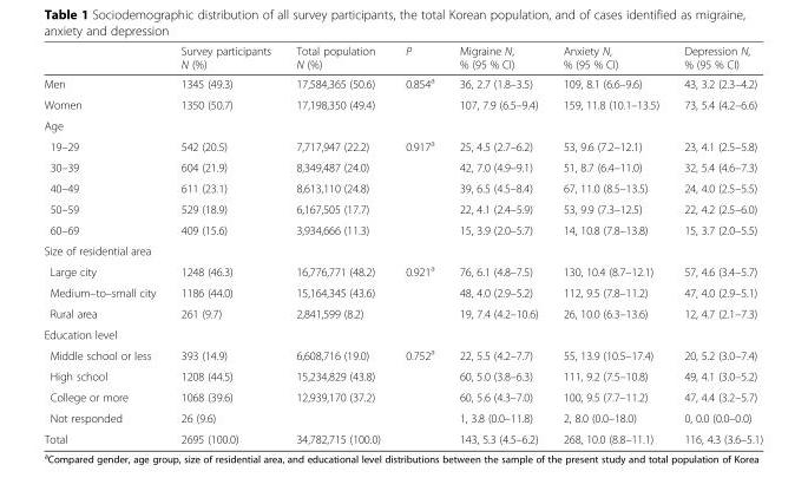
<table><thead><tr><td></td><td>Survey participants N (%)</td><td>Total population N (%)</td><td>P</td><td>Migraine N, % (95 % CI)</td><td>Anxiety N, % (95 % CI)</td><td>Depression N, % (95 % CI)</td></tr></thead><tbody><tr><td>Men</td><td>1345 (49.3)</td><td>17,584,365 (50.6)</td><td rowspan="2">0.854<sup>a</sup></td><td>36, 2.7 (1.8–3.5)</td><td>109, 8.1 (6.6–9.6)</td><td>43, 3.2 (2.3–4.2)</td></tr><tr><td>Women</td><td>1350 (50.7)</td><td>17,198,350 (49.4)</td><td>107, 7.9 (6.5–9.4)</td><td>159, 11.8 (10.1–13.5)</td><td>73, 5.4 (4.2–6.6)</td></tr><tr><td colspan="7">Age</td></tr><tr><td>19–29</td><td>542 (20.5)</td><td>7,717,947 (22.2)</td><td rowspan="5">0.917<sup>a</sup></td><td>25, 4.5 (2.7–6.2)</td><td>53, 9.6 (7.2–12.1)</td><td>23, 4.1 (2.5–5.8)</td></tr><tr><td>30–39</td><td>604 (21.9)</td><td>8,349,487 (24.0)</td><td>42, 7.0 (4.9–9.1)</td><td>51, 8.7 (6.4–11.0)</td><td>32, 5.4 (4.6–7.3)</td></tr><tr><td>40–49</td><td>611 (23.1)</td><td>8,613,110 (24.8)</td><td>39, 6.5 (4.5–8.4)</td><td>67, 11.0 (8.5–13.5)</td><td>24, 4.0 (2.5–5.5)</td></tr><tr><td>50–59</td><td>529 (18.9)</td><td>6,167,505 (17.7)</td><td>22, 4.1 (2.4–5.9)</td><td>53, 9.9 (7.3–12.5)</td><td>22, 4.2 (2.5–6.0)</td></tr><tr><td>60–69</td><td>409 (15.6)</td><td>3,934,666 (11.3)</td><td>15, 3.9 (2.0–5.7)</td><td>14, 10.8 (7.8–13.8)</td><td>15, 3.7 (2.0–5.5)</td></tr><tr><td colspan="7">Size of residential area</td></tr><tr><td>Large city</td><td>1248 (46.3)</td><td>16,776,771 (48.2)</td><td rowspan="3">0.921<sup>a</sup></td><td>76, 6.1 (4.8–7.5)</td><td>130, 10.4 (8.7–12.1)</td><td>57, 4.6 (3.4–5.7)</td></tr><tr><td>Medium–to–small city</td><td>1186 (44.0)</td><td>15,164,345 (43.6)</td><td>48, 4.0 (2.9–5.2)</td><td>112, 9.5 (7.8–11.2)</td><td>47, 4.0 (2.9–5.1)</td></tr><tr><td>Rural area</td><td>261 (9.7)</td><td>2,841,599 (8.2)</td><td>19, 7.4 (4.2–10.6)</td><td>26, 10.0 (6.3–13.6)</td><td>12, 4.7 (2.1–7.3)</td></tr><tr><td colspan="7">Education level</td></tr><tr><td>Middle school or less</td><td>393 (14.9)</td><td>6,608,716 (19.0)</td><td rowspan="3">0.752<sup>a</sup></td><td>22, 5.5 (4.2–7.7)</td><td>55, 13.9 (10.5–17.4)</td><td>20, 5.2 (3.0–7.4)</td></tr><tr><td>High school</td><td>1208 (44.5)</td><td>15,234,829 (43.8)</td><td>60, 5.0 (3.8–6.3)</td><td>111, 9.2 (7.5–10.8)</td><td>49, 4.1 (3.0–5.2)</td></tr><tr><td>College or more</td><td>1068 (39.6)</td><td>12,939,170 (37.2)</td><td>60, 5.6 (4.3–7.0)</td><td>100, 9.5 (7.7–11.2)</td><td>47, 4.4 (3.2–5.7)</td></tr><tr><td>Not responded</td><td>26 (9.6)</td><td></td><td></td><td>1, 3.8 (0.0–11.8)</td><td>2, 8.0 (0.0–18.0)</td><td>0, 0.0 (0.0–0.0)</td></tr><tr><td>Total</td><td>2695 (100.0)</td><td>34,782,715 (100.0)</td><td></td><td>143, 5.3 (4.5–6.2)</td><td>268, 10.0 (8.8–11.1)</td><td>116, 4.3 (3.6–5.1)</td></tr></tbody></table>